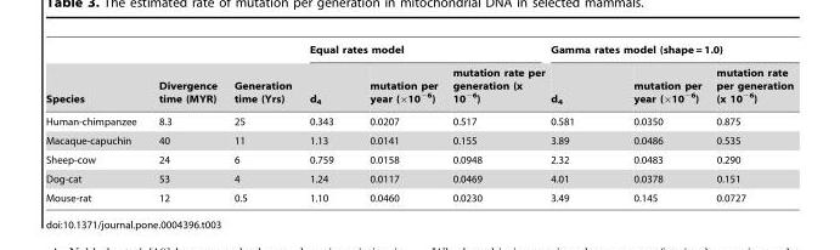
<table><thead><tr><td rowspan="2">Species</td><td rowspan="2">Divergence time (MYR)</td><td rowspan="2">Generation time (Yrs)</td><td colspan="3">Equal rates model</td><td colspan="3">Gamma rates model (shape = 1.0)</td></tr><tr><td>d<sub>4</sub></td><td>mutation per year (×10<sup>−6</sup>)</td><td>mutation rate per generation (x 10<sup>−6</sup>)</td><td>d<sub>4</sub></td><td>mutation per year (×10<sup>−6</sup>)</td><td>mutation rate per generation (x 10<sup>−6</sup>)</td></tr></thead><tbody><tr><td>Human-chimpanzee</td><td>8.3</td><td>25</td><td>0.343</td><td>0.0207</td><td>0.517</td><td>0.581</td><td>0.0350</td><td>0.875</td></tr><tr><td>Macaque-capuchin</td><td>40</td><td>11</td><td>1.13</td><td>0.0141</td><td>0.155</td><td>3.89</td><td>0.0486</td><td>0.535</td></tr><tr><td>Sheep-cow</td><td>24</td><td>6</td><td>0.759</td><td>0.0158</td><td>0.0948</td><td>2.32</td><td>0.0483</td><td>0.290</td></tr><tr><td>Dog-cat</td><td>53</td><td>4</td><td>1.24</td><td>0.0117</td><td>0.0469</td><td>4.01</td><td>0.0378</td><td>0.151</td></tr><tr><td>Mouse-rat</td><td>12</td><td>0.5</td><td>1.10</td><td>0.0460</td><td>0.0230</td><td>3.49</td><td>0.145</td><td>0.0727</td></tr></tbody></table>